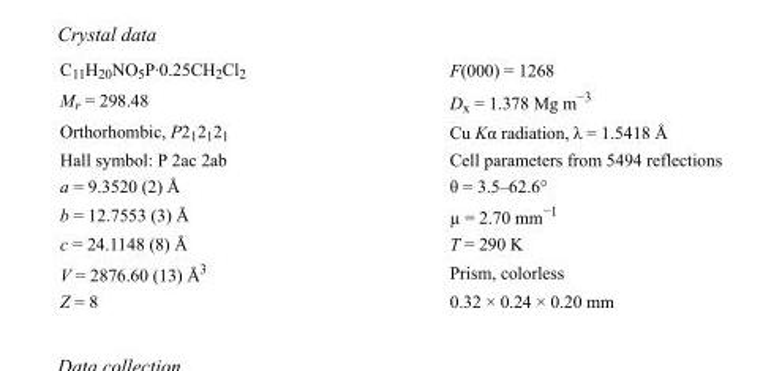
<table><tbody><tr><td>C<sub>11</sub>H<sub>20</sub>NO<sub>5</sub>P·0.25CH<sub>2</sub>Cl<sub>2</sub></td><td>F(000) = 1268</td></tr><tr><td>M<sub>r</sub> = 298.48</td><td>D<sub>x</sub> = 1.378 Mg m<sup>−3</sup></td></tr><tr><td>Orthorhombic, P2<sub>1</sub>2<sub>1</sub>2<sub>1</sub></td><td>Cu Kα radiation, λ = 1.5418 Å</td></tr><tr><td>Hall symbol: P 2ac 2ab</td><td>Cell parameters from 5494 reflections</td></tr><tr><td>a = 9.3520 (2) Å</td><td>θ = 3.5–62.6°</td></tr><tr><td>b = 12.7553 (3) Å</td><td>µ = 2.70 mm<sup>−1</sup></td></tr><tr><td>c = 24.1148 (8) Å</td><td>T = 290 K</td></tr><tr><td>V = 2876.60 (13) Å<sup>3</sup></td><td>Prism, colorless</td></tr><tr><td>Z = 8</td><td>0.32 × 0.24 × 0.20 mm</td></tr></tbody></table>